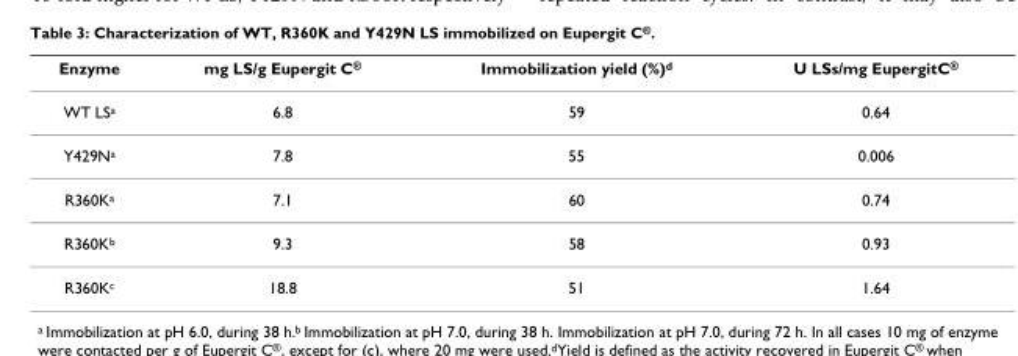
<table><thead><tr><td>Enzyme</td><td>mg LS/g Eupergit C<sup>®</sup></td><td>Immobilization yield (%)<sup>d</sup></td><td>U LSs/mg EupergitC<sup>®</sup></td></tr></thead><tbody><tr><td>WT LS<sup>a</sup></td><td>6.8</td><td>59</td><td>0.64</td></tr><tr><td>Y429N<sup>a</sup></td><td>7.8</td><td>55</td><td>0.006</td></tr><tr><td>R360K<sup>a</sup></td><td>7.1</td><td>60</td><td>0.74</td></tr><tr><td>R360K<sup>b</sup></td><td>9.3</td><td>58</td><td>0.93</td></tr><tr><td>R360K<sup>c</sup></td><td>18.8</td><td>51</td><td>1.64</td></tr></tbody></table>